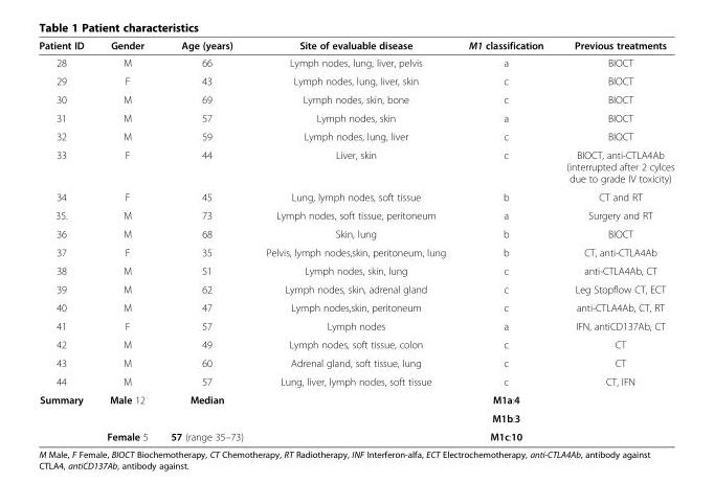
<table><thead><tr><td>Patient ID</td><td>Gender</td><td>Age (years)</td><td>Site of evaluable disease</td><td>M1 classification</td><td>Previous treatments</td></tr></thead><tbody><tr><td>28</td><td>M</td><td>66</td><td>Lymph nodes, lung, liver, pelvis</td><td>a</td><td>BIOCT</td></tr><tr><td>29</td><td>F</td><td>43</td><td>Lymph nodes, lung, liver, skin</td><td>c</td><td>BIOCT</td></tr><tr><td>30</td><td>M</td><td>69</td><td>Lymph nodes, skin, bone</td><td>c</td><td>BIOCT</td></tr><tr><td>31</td><td>M</td><td>57</td><td>Lymph nodes, skin</td><td>a</td><td>BIOCT</td></tr><tr><td>32</td><td>M</td><td>59</td><td>Lymph nodes, lung, liver</td><td>c</td><td>BIOCT</td></tr><tr><td>33</td><td>F</td><td>44</td><td>Liver, skin</td><td>c</td><td>BIOCT, anti-CTLA4Ab (interrupted after 2 cylces due to grade IV toxicity)</td></tr><tr><td>34</td><td>F</td><td>45</td><td>Lung, lymph nodes, soft tissue</td><td>b</td><td>CT and RT</td></tr><tr><td>35.</td><td>M</td><td>73</td><td>Lymph nodes, soft tissue, peritoneum</td><td>a</td><td>Surgery and RT</td></tr><tr><td>36</td><td>M</td><td>68</td><td>Skin, lung</td><td>b</td><td>BIOCT</td></tr><tr><td>37</td><td>F</td><td>35</td><td>Pelvis, lymph nodes,skin, peritoneum, lung</td><td>b</td><td>CT, anti-CTLA4Ab</td></tr><tr><td>38</td><td>M</td><td>51</td><td>Lymph nodes, skin, lung</td><td>c</td><td>anti-CTLA4Ab, CT</td></tr><tr><td>39</td><td>M</td><td>62</td><td>Lymph nodes, skin, adrenal gland</td><td>c</td><td>Leg Stopflow CT, ECT</td></tr><tr><td>40</td><td>M</td><td>47</td><td>Lymph nodes,skin, peritoneum</td><td>c</td><td>anti-CTLA4Ab, CT, RT</td></tr><tr><td>41</td><td>F</td><td>57</td><td>Lymph nodes</td><td>a</td><td>IFN, antiCD137Ab, CT</td></tr><tr><td>42</td><td>M</td><td>49</td><td>Lymph nodes, soft tissue, colon</td><td>c</td><td>CT</td></tr><tr><td>43</td><td>M</td><td>60</td><td>Adrenal gland, soft tissue, lung</td><td>c</td><td>CT</td></tr><tr><td>44</td><td>M</td><td>57</td><td>Lung, liver, lymph nodes, soft tissue</td><td>c</td><td>CT, IFN</td></tr><tr><td rowspan="3">Summary</td><td rowspan="2">Male 12</td><td rowspan="2">Median</td><td rowspan="2"></td><td>M1a:4</td><td rowspan="2"></td></tr><tr><td>M1b:3</td></tr><tr><td>Female 5</td><td>57 (range 35–73)</td><td></td><td>M1c:10</td><td></td></tr></tbody></table>